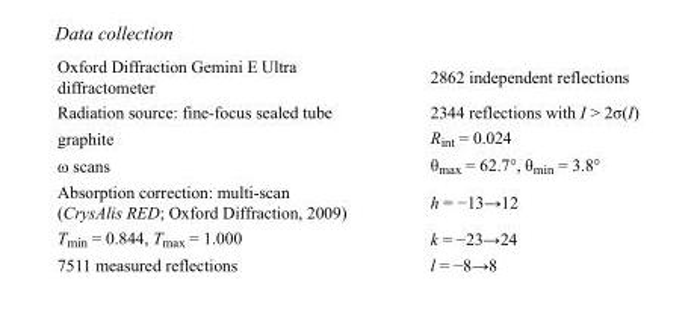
<table><tbody><tr><td>Oxford Diffraction Gemini E Ultra diffractometer</td><td>2862 independent reflections</td></tr><tr><td>Radiation source: fine-focus sealed tube</td><td>2344 reflections with I &gt; 2σ(I)</td></tr><tr><td>graphite</td><td>R<sub>int</sub> = 0.024</td></tr><tr><td>ω scans</td><td>θ<sub>max</sub> = 62.7°, θ<sub>min</sub> = 3.8°</td></tr><tr><td>Absorption correction: multi-scan (CrysAlis RED; Oxford Diffraction, 2009)</td><td>h = −13→12</td></tr><tr><td>T<sub>min</sub> = 0.844, T<sub>max</sub> = 1.000</td><td>k = −23→24</td></tr><tr><td>7511 measured reflections</td><td>l = −8→8</td></tr></tbody></table>